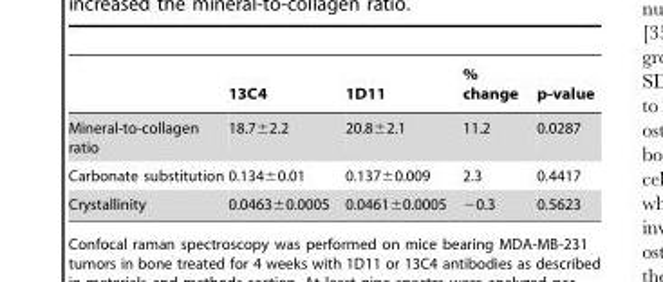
<table><thead><tr><td></td><td>13C4</td><td>1D11</td><td>% change</td><td>p-value</td></tr></thead><tbody><tr><td>Mineral-to-collagen ratio</td><td>18.7±2.2</td><td>20.8±2.1</td><td>11.2</td><td>0.0287</td></tr><tr><td>Carbonate substitution</td><td>0.134±0.01</td><td>0.137±0.009</td><td>2.3</td><td>0.4417</td></tr><tr><td>Crystallinity</td><td>0.0463±0.0005</td><td>0.0461±0.0005</td><td>−0.3</td><td>0.5623</td></tr></tbody></table>